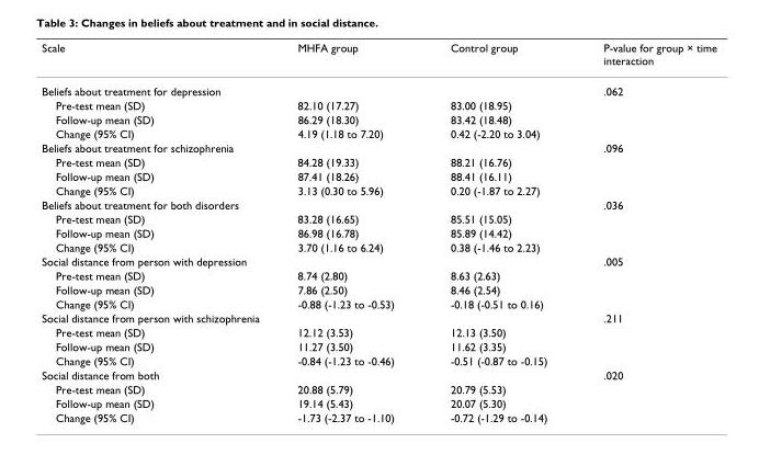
<table><thead><tr><td>Scale</td><td>MHFA group</td><td>Control group</td><td>P-value for group × time interaction</td></tr></thead><tbody><tr><td>Beliefs about treatment for depression</td><td></td><td></td><td>.062</td></tr><tr><td>Pre-test mean (SD)</td><td>82.10 (17.27)</td><td>83.00 (18.95)</td><td></td></tr><tr><td>Follow-up mean (SD)</td><td>86.29 (18.30)</td><td>83.42 (18.48)</td><td></td></tr><tr><td>Change (95% CI)</td><td>4.19 (1.18 to 7.20)</td><td>0.42 (-2.20 to 3.04)</td><td></td></tr><tr><td>Beliefs about treatment for schizophrenia</td><td></td><td></td><td>.096</td></tr><tr><td>Pre-test mean (SD)</td><td>84.28 (19.33)</td><td>88.21 (16.76)</td><td></td></tr><tr><td>Follow-up mean (SD)</td><td>87.41 (18.26)</td><td>88.41 (16.11)</td><td></td></tr><tr><td>Change (95% CI)</td><td>3.13 (0.30 to 5.96)</td><td>0.20 (-1.87 to 2.27)</td><td></td></tr><tr><td>Beliefs about treatment for both disorders</td><td></td><td></td><td>.036</td></tr><tr><td>Pre-test mean (SD)</td><td>83.28 (16.65)</td><td>85.51 (15.05)</td><td></td></tr><tr><td>Follow-up mean (SD)</td><td>86.98 (16.78)</td><td>85.89 (14.42)</td><td></td></tr><tr><td>Change (95% CI)</td><td>3.70 (1.16 to 6.24)</td><td>0.38 (-1.46 to 2.23)</td><td></td></tr><tr><td>Social distance from person with depression</td><td></td><td></td><td>.005</td></tr><tr><td>Pre-test mean (SD)</td><td>8.74 (2.80)</td><td>8.63 (2.63)</td><td></td></tr><tr><td>Follow-up mean (SD)</td><td>7.86 (2.50)</td><td>8.46 (2.54)</td><td></td></tr><tr><td>Change (95% CI)</td><td>-0.88 (-1.23 to -0.53)</td><td>-0.18 (-0.51 to 0.16)</td><td></td></tr><tr><td>Social distance from person with schizophrenia</td><td></td><td></td><td>.211</td></tr><tr><td>Pre-test mean (SD)</td><td>12.12 (3.53)</td><td>12.13 (3.50)</td><td></td></tr><tr><td>Follow-up mean (SD)</td><td>11.27 (3.50)</td><td>11.62 (3.35)</td><td></td></tr><tr><td>Change (95% CI)</td><td>-0.84 (-1.23 to -0.46)</td><td>-0.51 (-0.87 to -0.15)</td><td></td></tr><tr><td>Social distance from both</td><td></td><td></td><td>.020</td></tr><tr><td>Pre-test mean (SD)</td><td>20.88 (5.79)</td><td>20.79 (5.53)</td><td></td></tr><tr><td>Follow-up mean (SD)</td><td>19.14 (5.43)</td><td>20.07 (5.30)</td><td></td></tr><tr><td>Change (95% CI)</td><td>-1.73 (-2.37 to -1.10)</td><td>-0.72 (-1.29 to -0.14)</td><td></td></tr></tbody></table>